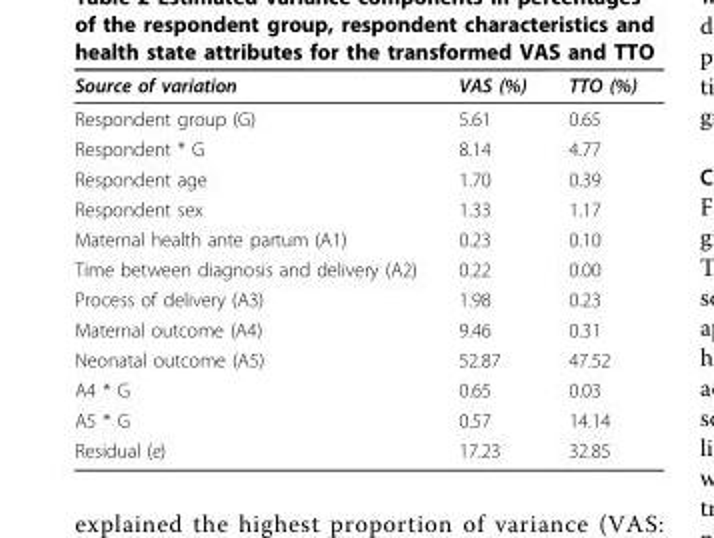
<table><thead><tr><td>Source of variation</td><td>VAS (%)</td><td>TTO (%)</td></tr></thead><tbody><tr><td>Respondent group (G)</td><td>5.61</td><td>0.65</td></tr><tr><td>Respondent * G</td><td>8.14</td><td>4.77</td></tr><tr><td>Respondent age</td><td>1.70</td><td>0.39</td></tr><tr><td>Respondent sex</td><td>1.33</td><td>1.17</td></tr><tr><td>Maternal health ante partum (A1)</td><td>0.23</td><td>0.10</td></tr><tr><td>Time between diagnosis and delivery (A2)</td><td>0.22</td><td>0.00</td></tr><tr><td>Process of delivery (A3)</td><td>1.98</td><td>0.23</td></tr><tr><td>Maternal outcome (A4)</td><td>9.46</td><td>0.31</td></tr><tr><td>Neonatal outcome (A5)</td><td>52.87</td><td>47.52</td></tr><tr><td>A4 * G</td><td>0.65</td><td>0.03</td></tr><tr><td>A5 * G</td><td>0.57</td><td>14.14</td></tr><tr><td>Residual (e)</td><td>17.23</td><td>32.85</td></tr></tbody></table>